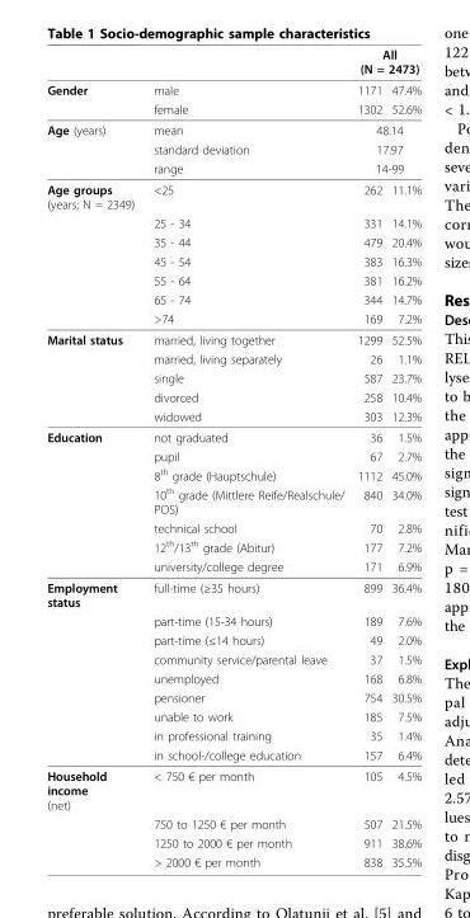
<table><thead><tr><td rowspan="2">Gender</td><td rowspan="2">male</td><td colspan="2">All (N = 2473)</td></tr><tr><td>1171</td><td>47.4%</td></tr></thead><tbody><tr><td></td><td>female</td><td>1302</td><td>52.6%</td></tr><tr><td rowspan="3">Age (years)</td><td>mean</td><td colspan="2">48.14</td></tr><tr><td>standard deviation</td><td colspan="2">17.97</td></tr><tr><td>range</td><td colspan="2">14-99</td></tr><tr><td rowspan="7">Age groups (years; N = 2349)</td><td>&lt;25</td><td>262</td><td>11.1%</td></tr><tr><td>25 - 34</td><td>331</td><td>14.1%</td></tr><tr><td>35 - 44</td><td>479</td><td>20.4%</td></tr><tr><td>45 - 54</td><td>383</td><td>16.3%</td></tr><tr><td>55 - 64</td><td>381</td><td>16.2%</td></tr><tr><td>65 - 74</td><td>344</td><td>14.7%</td></tr><tr><td>&gt;74</td><td>169</td><td>7.2%</td></tr><tr><td rowspan="5">Marital status</td><td>married, living together</td><td>1299</td><td>52.5%</td></tr><tr><td>married, living separately</td><td>26</td><td>1.1%</td></tr><tr><td>single</td><td>587</td><td>23.7%</td></tr><tr><td>divorced</td><td>258</td><td>10.4%</td></tr><tr><td>widowed</td><td>303</td><td>12.3%</td></tr><tr><td rowspan="7">Education</td><td>not graduated</td><td>36</td><td>1.5%</td></tr><tr><td>pupil</td><td>67</td><td>2.7%</td></tr><tr><td>8<sup>th</sup> grade (Hauptschule)</td><td>1112</td><td>45.0%</td></tr><tr><td>10<sup>th</sup> grade (Mittlere Reife/Realschule/ POS)</td><td>840</td><td>34.0%</td></tr><tr><td>technical school</td><td>70</td><td>2.8%</td></tr><tr><td>12<sup>th</sup>/13<sup>th</sup> grade (Abitur)</td><td>177</td><td>7.2%</td></tr><tr><td>university/college degree</td><td>171</td><td>6.9%</td></tr><tr><td rowspan="9">Employment status</td><td>full-time (≥35 hours)</td><td>899</td><td>36.4%</td></tr><tr><td>part-time (15-34 hours)</td><td>189</td><td>7.6%</td></tr><tr><td>part-time (≤14 hours)</td><td>49</td><td>2.0%</td></tr><tr><td>community service/parental leave</td><td>37</td><td>1.5%</td></tr><tr><td>unemployed</td><td>168</td><td>6.8%</td></tr><tr><td>pensioner</td><td>754</td><td>30.5%</td></tr><tr><td>unable to work</td><td>185</td><td>7.5%</td></tr><tr><td>in professional training</td><td>35</td><td>1.4%</td></tr><tr><td>in school-/college education</td><td>157</td><td>6.4%</td></tr><tr><td rowspan="4">Household income (net)</td><td>&lt; 750 € per month</td><td>105</td><td>4.5%</td></tr><tr><td>750 to 1250 € per month</td><td>507</td><td>21.5%</td></tr><tr><td>1250 to 2000 € per month</td><td>911</td><td>38.6%</td></tr><tr><td>&gt; 2000 € per month</td><td>838</td><td>35.5%</td></tr></tbody></table>